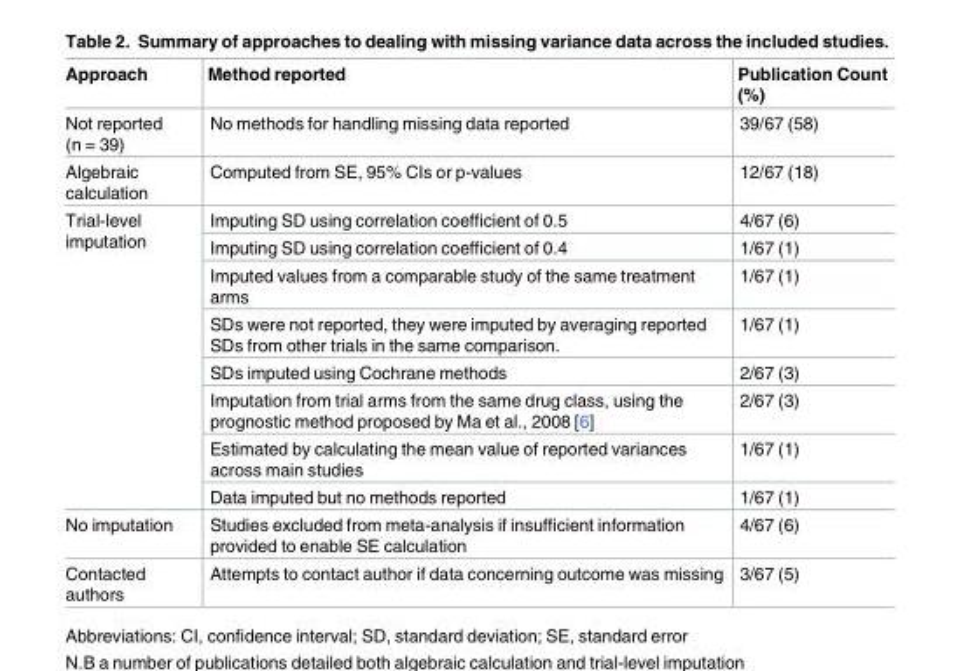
<table><thead><tr><td>Approach</td><td>Method reported</td><td>Publication Count (%)</td></tr></thead><tbody><tr><td>Not reported (n = 39)</td><td>No methods for handling missing data reported</td><td>39/67 (58)</td></tr><tr><td>Algebraic calculation</td><td>Computed from SE, 95% CIs or p-values</td><td>12/67 (18)</td></tr><tr><td rowspan="8">Trial-level imputation</td><td>Imputing SD using correlation coefficient of 0.5</td><td>4/67 (6)</td></tr><tr><td>Imputing SD using correlation coefficient of 0.4</td><td>1/67 (1)</td></tr><tr><td>Imputed values from a comparable study of the same treatment arms</td><td>1/67 (1)</td></tr><tr><td>SDs were not reported, they were imputed by averaging reported SDs from other trials in the same comparison.</td><td>1/67 (1)</td></tr><tr><td>SDs imputed using Cochrane methods</td><td>2/67 (3)</td></tr><tr><td>Imputation from trial arms from the same drug class, using the prognostic method proposed by Ma et al., 2008 [6]</td><td>2/67 (3)</td></tr><tr><td>Estimated by calculating the mean value of reported variances across main studies</td><td>1/67 (1)</td></tr><tr><td>Data imputed but no methods reported</td><td>1/67 (1)</td></tr><tr><td>No imputation</td><td>Studies excluded from meta-analysis if insufficient information provided to enable SE calculation</td><td>4/67 (6)</td></tr><tr><td>Contacted authors</td><td>Attempts to contact author if data concerning outcome was missing</td><td>3/67 (5)</td></tr></tbody></table>